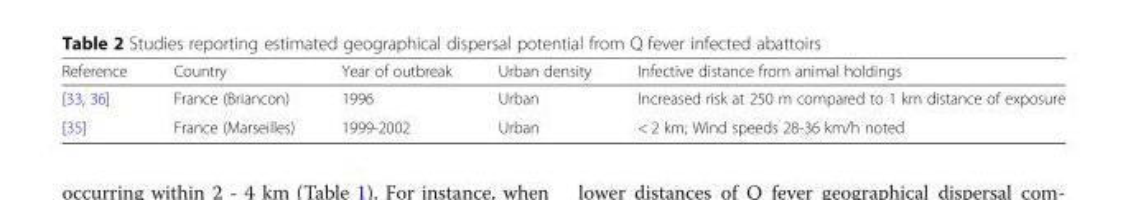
<table><thead><tr><td>Reference</td><td>Country</td><td>Year of outbreak</td><td>Urban density</td><td>Infective distance from animal holdings</td></tr></thead><tbody><tr><td>[33, 36]</td><td>France (Briancon)</td><td>1996</td><td>Urban</td><td>Increased risk at 250 m compared to 1 km distance of exposure</td></tr><tr><td>[35]</td><td>France (Marseilles)</td><td>1999-2002</td><td>Urban</td><td>&lt; 2 km; Wind speeds 28-36 km/h noted</td></tr></tbody></table>